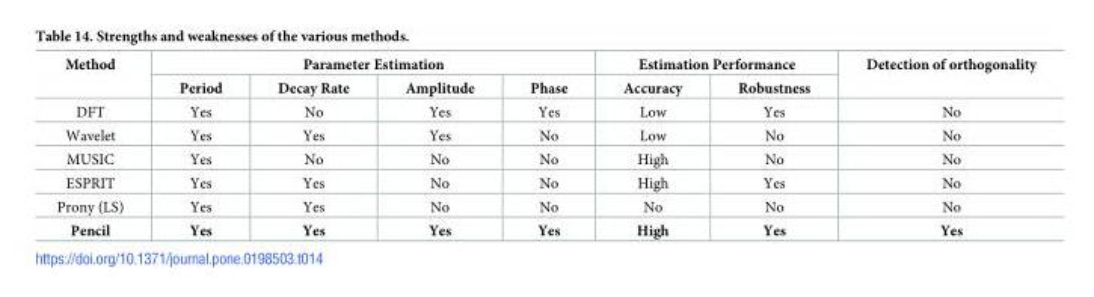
<table><thead><tr><td rowspan="2">Method</td><td colspan="4">Parameter Estimation</td><td colspan="2">Estimation Performance</td><td rowspan="2">Detection of orthogonality</td></tr><tr><td>Period</td><td>Decay Rate</td><td>Amplitude</td><td>Phase</td><td>Accuracy</td><td>Robustness</td></tr></thead><tbody><tr><td>DFT</td><td>Yes</td><td>No</td><td>Yes</td><td>Yes</td><td>Low</td><td>Yes</td><td>No</td></tr><tr><td>Wavelet</td><td>Yes</td><td>Yes</td><td>Yes</td><td>No</td><td>Low</td><td>No</td><td>No</td></tr><tr><td>MUSIC</td><td>Yes</td><td>No</td><td>No</td><td>No</td><td>High</td><td>No</td><td>No</td></tr><tr><td>ESPRIT</td><td>Yes</td><td>Yes</td><td>No</td><td>No</td><td>High</td><td>Yes</td><td>No</td></tr><tr><td>Prony (LS)</td><td>Yes</td><td>Yes</td><td>No</td><td>No</td><td>No</td><td>No</td><td>No</td></tr><tr><td>Pencil</td><td>Yes</td><td>Yes</td><td>Yes</td><td>Yes</td><td>High</td><td>Yes</td><td>Yes</td></tr></tbody></table>